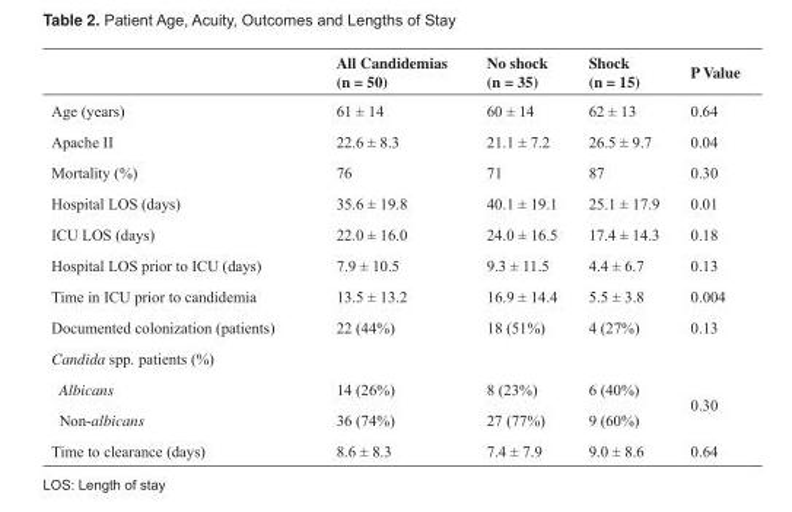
<table><thead><tr><td></td><td>All Candidemias (n = 50)</td><td>No shock (n = 35)</td><td>Shock (n = 15)</td><td>P Value</td></tr></thead><tbody><tr><td>Age (years)</td><td>61 ± 14</td><td>60 ± 14</td><td>62 ± 13</td><td>0.64</td></tr><tr><td>Apache II</td><td>22.6 ± 8.3</td><td>21.1 ± 7.2</td><td>26.5 ± 9.7</td><td>0.04</td></tr><tr><td>Mortality (%)</td><td>76</td><td>71</td><td>87</td><td>0.30</td></tr><tr><td>Hospital LOS (days)</td><td>35.6 ± 19.8</td><td>40.1 ± 19.1</td><td>25.1 ± 17.9</td><td>0.01</td></tr><tr><td>ICU LOS (days)</td><td>22.0 ± 16.0</td><td>24.0 ± 16.5</td><td>17.4 ± 14.3</td><td>0.18</td></tr><tr><td>Hospital LOS prior to ICU (days)</td><td>7.9 ± 10.5</td><td>9.3 ± 11.5</td><td>4.4 ± 6.7</td><td>0.13</td></tr><tr><td>Time in ICU prior to candidemia</td><td>13.5 ± 13.2</td><td>16.9 ± 14.4</td><td>5.5 ± 3.8</td><td>0.004</td></tr><tr><td>Documented colonization (patients)</td><td>22 (44%)</td><td>18 (51%)</td><td>4 (27%)</td><td>0.13</td></tr><tr><td colspan="5">Candida spp. patients (%)</td></tr><tr><td>Albicans</td><td>14 (26%)</td><td>8 (23%)</td><td>6 (40%)</td><td rowspan="2">0.30</td></tr><tr><td>Non-albicans</td><td>36 (74%)</td><td>27 (77%)</td><td>9 (60%)</td></tr><tr><td>Time to clearance (days)</td><td>8.6 ± 8.3</td><td>7.4 ± 7.9</td><td>9.0 ± 8.6</td><td>0.64</td></tr></tbody></table>